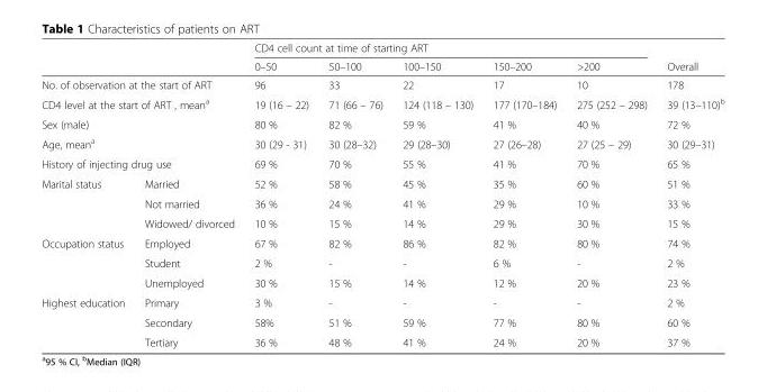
<table><thead><tr><td rowspan="2"></td><td rowspan="2"></td><td colspan="5">CD4 cell count at time of starting ART</td><td rowspan="2">Overall</td></tr><tr><td>0–50</td><td>50–100</td><td>100–150</td><td>150–200</td><td>&gt;200</td></tr></thead><tbody><tr><td colspan="2">No. of observation at the start of ART</td><td>96</td><td>33</td><td>22</td><td>17</td><td>10</td><td>178</td></tr><tr><td colspan="2">CD4 level at the start of ART , mean<sup>a</sup></td><td>19 (16 – 22)</td><td>71 (66 – 76)</td><td>124 (118 – 130)</td><td>177 (170–184)</td><td>275 (252 – 298)</td><td>39 (13–110)<sup>b</sup></td></tr><tr><td colspan="2">Sex (male)</td><td>80 %</td><td>82 %</td><td>59 %</td><td>41 %</td><td>40 %</td><td>72 %</td></tr><tr><td colspan="2">Age, mean<sup>a</sup></td><td>30 (29 - 31)</td><td>30 (28–32)</td><td>29 (28–30)</td><td>27 (26–28)</td><td>27 (25 – 29)</td><td>30 (29–31)</td></tr><tr><td colspan="2">History of injecting drug use</td><td>69 %</td><td>70 %</td><td>55 %</td><td>41 %</td><td>70 %</td><td>65 %</td></tr><tr><td rowspan="3">Marital status</td><td>Married</td><td>52 %</td><td>58 %</td><td>45 %</td><td>35 %</td><td>60 %</td><td>51 %</td></tr><tr><td>Not married</td><td>36 %</td><td>24 %</td><td>41 %</td><td>29 %</td><td>10 %</td><td>33 %</td></tr><tr><td>Widowed/ divorced</td><td>10 %</td><td>15 %</td><td>14 %</td><td>29 %</td><td>30 %</td><td>15 %</td></tr><tr><td rowspan="3">Occupation status</td><td>Employed</td><td>67 %</td><td>82 %</td><td>86 %</td><td>82 %</td><td>80 %</td><td>74 %</td></tr><tr><td>Student</td><td>2 %</td><td>-</td><td>-</td><td>6 %</td><td>-</td><td>2 %</td></tr><tr><td>Unemployed</td><td>30 %</td><td>15 %</td><td>14 %</td><td>12 %</td><td>20 %</td><td>23 %</td></tr><tr><td rowspan="3">Highest education</td><td>Primary</td><td>3 %</td><td>-</td><td>-</td><td>-</td><td>-</td><td>2 %</td></tr><tr><td>Secondary</td><td>58%</td><td>51 %</td><td>59 %</td><td>77 %</td><td>80 %</td><td>60 %</td></tr><tr><td>Tertiary</td><td>36 %</td><td>48 %</td><td>41 %</td><td>24 %</td><td>20 %</td><td>37 %</td></tr></tbody></table>